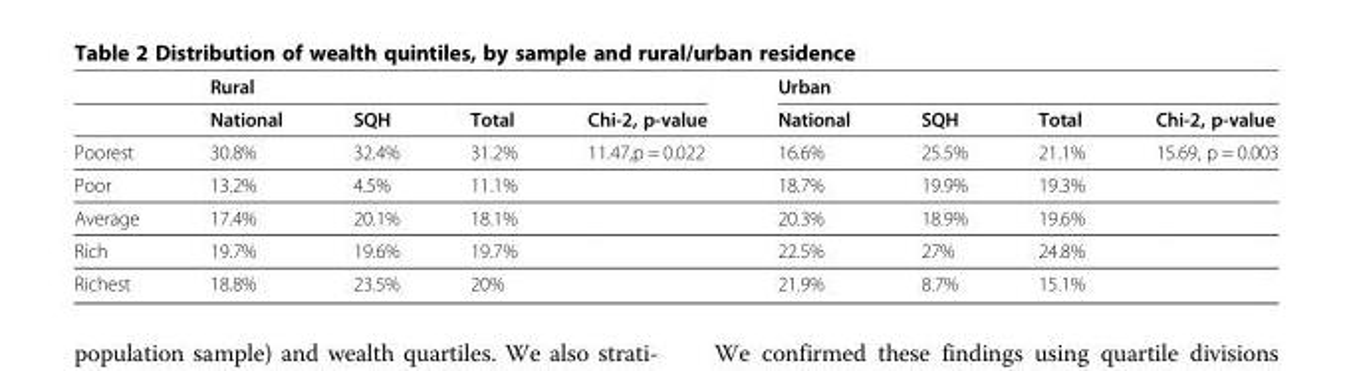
<table><thead><tr><td rowspan="2"></td><td colspan="4">Rural</td><td colspan="4">Urban</td></tr><tr><td>National</td><td>SQH</td><td>Total</td><td>Chi-2, p-value</td><td>National</td><td>SQH</td><td>Total</td><td>Chi-2, p-value</td></tr></thead><tbody><tr><td>Poorest</td><td>30.8%</td><td>32.4%</td><td>31.2%</td><td>11.47,p = 0.022</td><td>16.6%</td><td>25.5%</td><td>21.1%</td><td>15.69, p = 0.003</td></tr><tr><td>Poor</td><td>13.2%</td><td>4.5%</td><td>11.1%</td><td></td><td>18.7%</td><td>19.9%</td><td>19.3%</td><td></td></tr><tr><td>Average</td><td>17.4%</td><td>20.1%</td><td>18.1%</td><td></td><td>20.3%</td><td>18.9%</td><td>19.6%</td><td></td></tr><tr><td>Rich</td><td>19.7%</td><td>19.6%</td><td>19.7%</td><td></td><td>22.5%</td><td>27%</td><td>24.8%</td><td></td></tr><tr><td>Richest</td><td>18.8%</td><td>23.5%</td><td>20%</td><td></td><td>21.9%</td><td>8.7%</td><td>15.1%</td><td></td></tr></tbody></table>